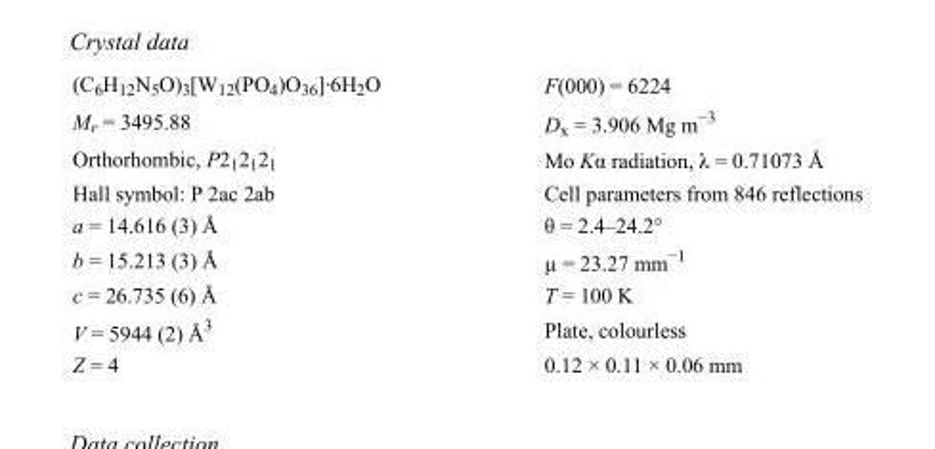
<table><tbody><tr><td>(C<sub>6</sub>H<sub>12</sub>N<sub>5</sub>O)<sub>3</sub>[W<sub>12</sub>(PO<sub>4</sub>)O<sub>36</sub>]·6H<sub>2</sub>O</td><td>F(000) = 6224</td></tr><tr><td>M<sub>r</sub> = 3495.88</td><td>D<sub>x</sub> = 3.906 Mg m<sup>−3</sup></td></tr><tr><td>Orthorhombic, P2<sub>1</sub>2<sub>1</sub>2<sub>1</sub></td><td>Mo Kα radiation, λ = 0.71073 Å</td></tr><tr><td>Hall symbol: P 2ac 2ab</td><td>Cell parameters from 846 reflections</td></tr><tr><td>a = 14.616 (3) Å</td><td>θ = 2.4–24.2°</td></tr><tr><td>b = 15.213 (3) Å</td><td>µ = 23.27 mm<sup>−1</sup></td></tr><tr><td>c = 26.735 (6) Å</td><td>T = 100 K</td></tr><tr><td>V = 5944 (2) Å<sup>3</sup></td><td>Plate, colourless</td></tr><tr><td>Z = 4</td><td>0.12 × 0.11 × 0.06 mm</td></tr></tbody></table>